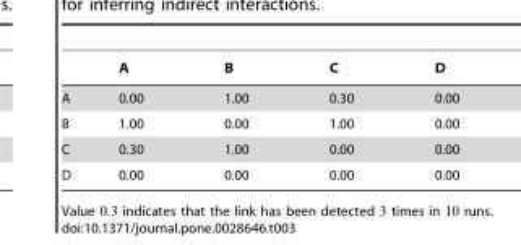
<table><thead><tr><td></td><td>A</td><td>B</td><td>C</td><td>D</td></tr></thead><tbody><tr><td>A</td><td>0.00</td><td>1.00</td><td>0.30</td><td>0.00</td></tr><tr><td>B</td><td>1.00</td><td>0.00</td><td>1.00</td><td>0.00</td></tr><tr><td>C</td><td>0.30</td><td>1.00</td><td>0.00</td><td>0.00</td></tr><tr><td>D</td><td>0.00</td><td>0.00</td><td>0.00</td><td>0.00</td></tr></tbody></table>